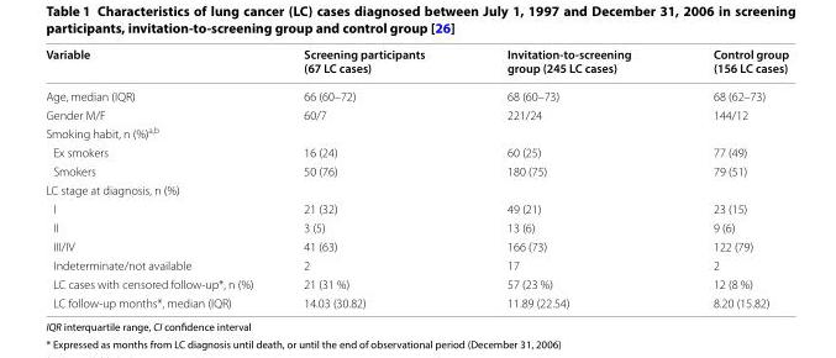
<table><thead><tr><td>Variable</td><td>Screening participants (67 LC cases)</td><td>Invitation‑to‑screening group (245 LC cases)</td><td>Control group (156 LC cases)</td></tr></thead><tbody><tr><td>Age, median (IQR)</td><td>66 (60–72)</td><td>68 (60–73)</td><td>68 (62–73)</td></tr><tr><td>Gender M/F</td><td>60/7</td><td>221/24</td><td>144/12</td></tr><tr><td colspan="4">Smoking habit, n (%)<sup>a,b</sup></td></tr><tr><td>Ex smokers</td><td>16 (24)</td><td>60 (25)</td><td>77 (49)</td></tr><tr><td>Smokers</td><td>50 (76)</td><td>180 (75)</td><td>79 (51)</td></tr><tr><td colspan="4">LC stage at diagnosis, n (%)</td></tr><tr><td>I</td><td>21 (32)</td><td>49 (21)</td><td>23 (15)</td></tr><tr><td>II</td><td>3 (5)</td><td>13 (6)</td><td>9 (6)</td></tr><tr><td>III/IV</td><td>41 (63)</td><td>166 (73)</td><td>122 (79)</td></tr><tr><td>Indeterminate/not available</td><td>2</td><td>17</td><td>2</td></tr><tr><td>LC cases with censored follow-up*, n (%)</td><td>21 (31 %)</td><td>57 (23 %)</td><td>12 (8 %)</td></tr><tr><td>LC follow-up months*, median (IQR)</td><td>14.03 (30.82)</td><td>11.89 (22.54)</td><td>8.20 (15.82)</td></tr></tbody></table>